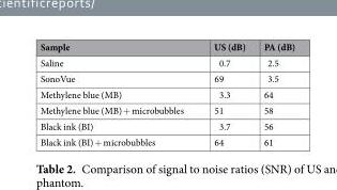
<table><thead><tr><td>Sample</td><td>US (dB)</td><td>PA (dB)</td></tr></thead><tbody><tr><td>Saline</td><td>0.7</td><td>2.5</td></tr><tr><td>SonoVue</td><td>69</td><td>3.5</td></tr><tr><td>Methylene blue (MB)</td><td>3.3</td><td>64</td></tr><tr><td>Methylene blue (MB) + microbubbles</td><td>51</td><td>58</td></tr><tr><td>Black ink (BI)</td><td>3.7</td><td>56</td></tr><tr><td>Black ink (BI) + microbubbles</td><td>64</td><td>61</td></tr></tbody></table>